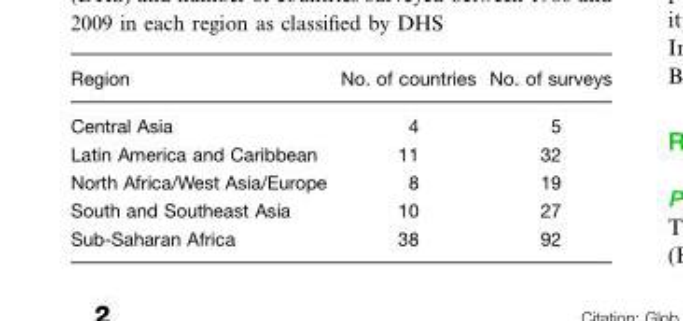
<table><thead><tr><td>Region</td><td>No. of countries</td><td>No. of surveys</td></tr></thead><tbody><tr><td>Central Asia</td><td>4</td><td>5</td></tr><tr><td>Latin America and Caribbean</td><td>11</td><td>32</td></tr><tr><td>North Africa/West Asia/Europe</td><td>8</td><td>19</td></tr><tr><td>South and Southeast Asia</td><td>10</td><td>27</td></tr><tr><td>Sub-Saharan Africa</td><td>38</td><td>92</td></tr></tbody></table>